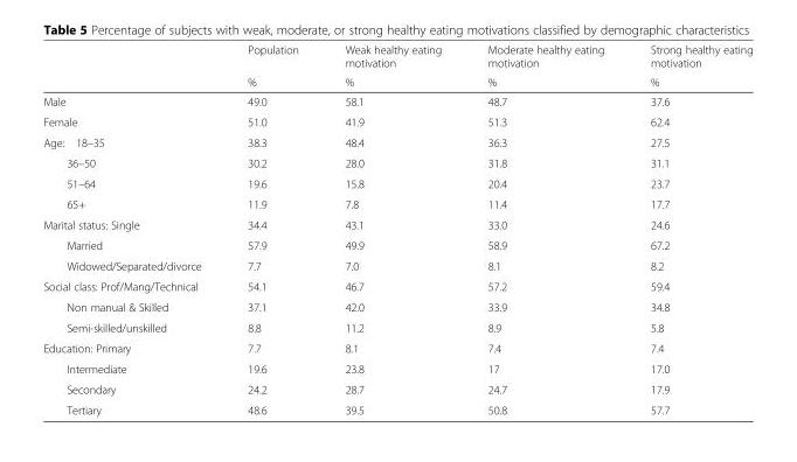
<table><thead><tr><td rowspan="2"></td><td rowspan="2">Population %</td><td rowspan="2">Weak healthy eating motivation %</td><td rowspan="2">Moderate healthy eating motivation %</td><td rowspan="2">Strong healthy eating motivation %</td></tr><tr></tr></thead><tbody><tr><td>Male</td><td>49.0</td><td>58.1</td><td>48.7</td><td>37.6</td></tr><tr><td>Female</td><td>51.0</td><td>41.9</td><td>51.3</td><td>62.4</td></tr><tr><td>Age: 18–35</td><td>38.3</td><td>48.4</td><td>36.3</td><td>27.5</td></tr><tr><td>36–50</td><td>30.2</td><td>28.0</td><td>31.8</td><td>31.1</td></tr><tr><td>51–64</td><td>19.6</td><td>15.8</td><td>20.4</td><td>23.7</td></tr><tr><td>65+</td><td>11.9</td><td>7.8</td><td>11.4</td><td>17.7</td></tr><tr><td>Marital status: Single</td><td>34.4</td><td>43.1</td><td>33.0</td><td>24.6</td></tr><tr><td>Married</td><td>57.9</td><td>49.9</td><td>58.9</td><td>67.2</td></tr><tr><td>Widowed/Separated/divorce</td><td>7.7</td><td>7.0</td><td>8.1</td><td>8.2</td></tr><tr><td>Social class: Prof/Mang/Technical</td><td>54.1</td><td>46.7</td><td>57.2</td><td>59.4</td></tr><tr><td>Non manual &amp; Skilled</td><td>37.1</td><td>42.0</td><td>33.9</td><td>34.8</td></tr><tr><td>Semi-skilled/unskilled</td><td>8.8</td><td>11.2</td><td>8.9</td><td>5.8</td></tr><tr><td>Education: Primary</td><td>7.7</td><td>8.1</td><td>7.4</td><td>7.4</td></tr><tr><td>Intermediate</td><td>19.6</td><td>23.8</td><td>17</td><td>17.0</td></tr><tr><td>Secondary</td><td>24.2</td><td>28.7</td><td>24.7</td><td>17.9</td></tr><tr><td>Tertiary</td><td>48.6</td><td>39.5</td><td>50.8</td><td>57.7</td></tr></tbody></table>